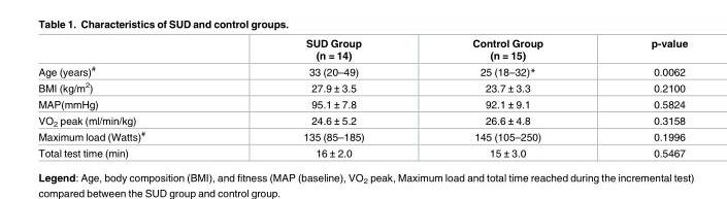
<table><thead><tr><td></td><td>SUD Group (n = 14)</td><td>Control Group (n = 15)</td><td>p-value</td></tr></thead><tbody><tr><td>Age (years)<sup>#</sup></td><td>33 (20–49)</td><td>25 (18–32)*</td><td>0.0062</td></tr><tr><td>BMI (kg/m<sup>2</sup>)</td><td>27.9 ± 3.5</td><td>23.7 ± 3.3</td><td>0.2100</td></tr><tr><td>MAP(mmHg)</td><td>95.1 ± 7.8</td><td>92.1 ± 9.1</td><td>0.5824</td></tr><tr><td>VO<sub>2</sub> peak (ml/min/kg)</td><td>24.6 ± 5.2</td><td>26.6 ± 4.8</td><td>0.3158</td></tr><tr><td>Maximum load (Watts)<sup>#</sup></td><td>135 (85–185)</td><td>145 (105–250)</td><td>0.1996</td></tr><tr><td>Total test time (min)</td><td>16 ± 2.0</td><td>15 ± 3.0</td><td>0.5467</td></tr></tbody></table>